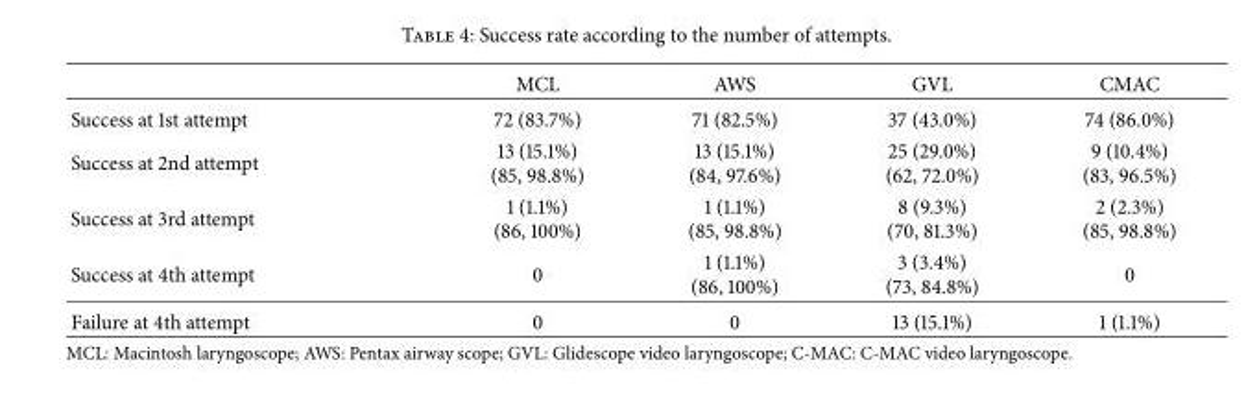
<table><thead><tr><td></td><td>MCL</td><td>AWS</td><td>GVL</td><td>CMAC</td></tr></thead><tbody><tr><td>Success at 1st attempt</td><td>72 (83.7%)</td><td>71 (82.5%)</td><td>37 (43.0%)</td><td>74 (86.0%)</td></tr><tr><td>Success at 2nd attempt</td><td>13 (15.1%) (85, 98.8%)</td><td>13 (15.1%) (84, 97.6%)</td><td>25 (29.0%) (62, 72.0%)</td><td>9 (10.4%) (83, 96.5%)</td></tr><tr><td>Success at 3rd attempt</td><td>1 (1.1%) (86, 100%)</td><td>1 (1.1%) (85, 98.8%)</td><td>8 (9.3%) (70, 81.3%)</td><td>2 (2.3%) (85, 98.8%)</td></tr><tr><td>Success at 4th attempt</td><td>0</td><td>1 (1.1%) (86, 100%)</td><td>3 (3.4%) (73, 84.8%)</td><td>0</td></tr><tr><td>Failure at 4th attempt</td><td>0</td><td>0</td><td>13 (15.1%)</td><td>1 (1.1%)</td></tr></tbody></table>